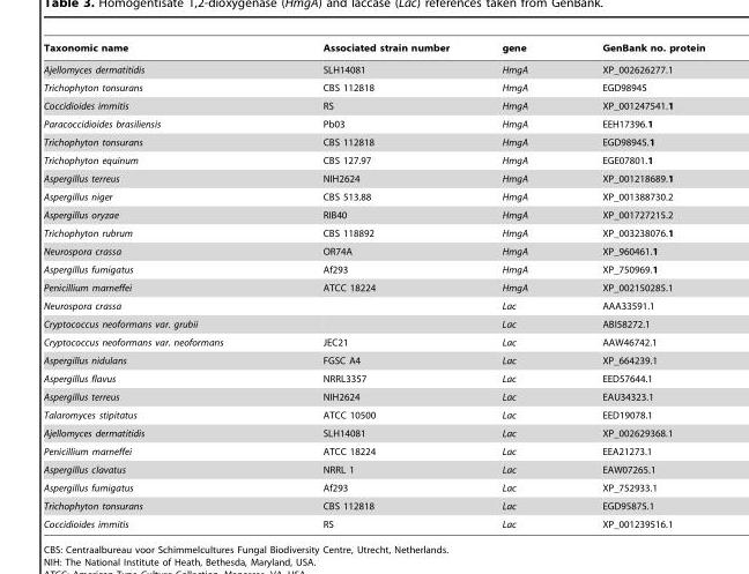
<table><thead><tr><td>Taxonomic name</td><td>Associated strain number</td><td>gene</td><td>GenBank no. protein</td></tr></thead><tbody><tr><td>Ajellomyces dermatitidis</td><td>SLH14081</td><td>HmgA</td><td>XP_002626277.1</td></tr><tr><td>Trichophyton tonsurans</td><td>CBS 112818</td><td>HmgA</td><td>EGD98945</td></tr><tr><td>Coccidioides immitis</td><td>RS</td><td>HmgA</td><td>XP_001247541.1</td></tr><tr><td>Paracoccidioides brasiliensis</td><td>Pb03</td><td>HmgA</td><td>EEH17396.1</td></tr><tr><td>Trichophyton tonsurans</td><td>CBS 112818</td><td>HmgA</td><td>EGD98945.1</td></tr><tr><td>Trichophyton equinum</td><td>CBS 127.97</td><td>HmgA</td><td>EGE07801.1</td></tr><tr><td>Aspergillus terreus</td><td>NIH2624</td><td>HmgA</td><td>XP_001218689.1</td></tr><tr><td>Aspergillus niger</td><td>CBS 513.88</td><td>HmgA</td><td>XP_001388730.2</td></tr><tr><td>Aspergillus oryzae</td><td>RIB40</td><td>HmgA</td><td>XP_001727215.2</td></tr><tr><td>Trichophyton rubrum</td><td>CBS 118892</td><td>HmgA</td><td>XP_003238076.1</td></tr><tr><td>Neurospora crassa</td><td>OR74A</td><td>HmgA</td><td>XP_960461.1</td></tr><tr><td>Aspergillus fumigatus</td><td>Af293</td><td>HmgA</td><td>XP_750969.1</td></tr><tr><td>Penicillium marneffei</td><td>ATCC 18224</td><td>HmgA</td><td>XP_002150285.1</td></tr><tr><td>Neurospora crassa</td><td></td><td>Lac</td><td>AAA33591.1</td></tr><tr><td>Cryptococcus neoformans var. grubii</td><td></td><td>Lac</td><td>ABI58272.1</td></tr><tr><td>Cryptococcus neoformans var. neoformans</td><td>JEC21</td><td>Lac</td><td>AAW46742.1</td></tr><tr><td>Aspergillus nidulans</td><td>FGSC A4</td><td>Lac</td><td>XP_664239.1</td></tr><tr><td>Aspergillus flavus</td><td>NRRL3357</td><td>Lac</td><td>EED57644.1</td></tr><tr><td>Aspergillus terreus</td><td>NIH2624</td><td>Lac</td><td>EAU34323.1</td></tr><tr><td>Talaromyces stipitatus</td><td>ATCC 10500</td><td>Lac</td><td>EED19078.1</td></tr><tr><td>Ajellomyces dermatitidis</td><td>SLH14081</td><td>Lac</td><td>XP_002629368.1</td></tr><tr><td>Penicillium marneffei</td><td>ATCC 18224</td><td>Lac</td><td>EEA21273.1</td></tr><tr><td>Aspergillus clavatus</td><td>NRRL 1</td><td>Lac</td><td>EAW07265.1</td></tr><tr><td>Aspergillus fumigatus</td><td>Af293</td><td>Lac</td><td>XP_752933.1</td></tr><tr><td>Trichophyton tonsurans</td><td>CBS 112818</td><td>Lac</td><td>EGD95875.1</td></tr><tr><td>Coccidioides immitis</td><td>RS</td><td>Lac</td><td>XP_001239516.1</td></tr></tbody></table>